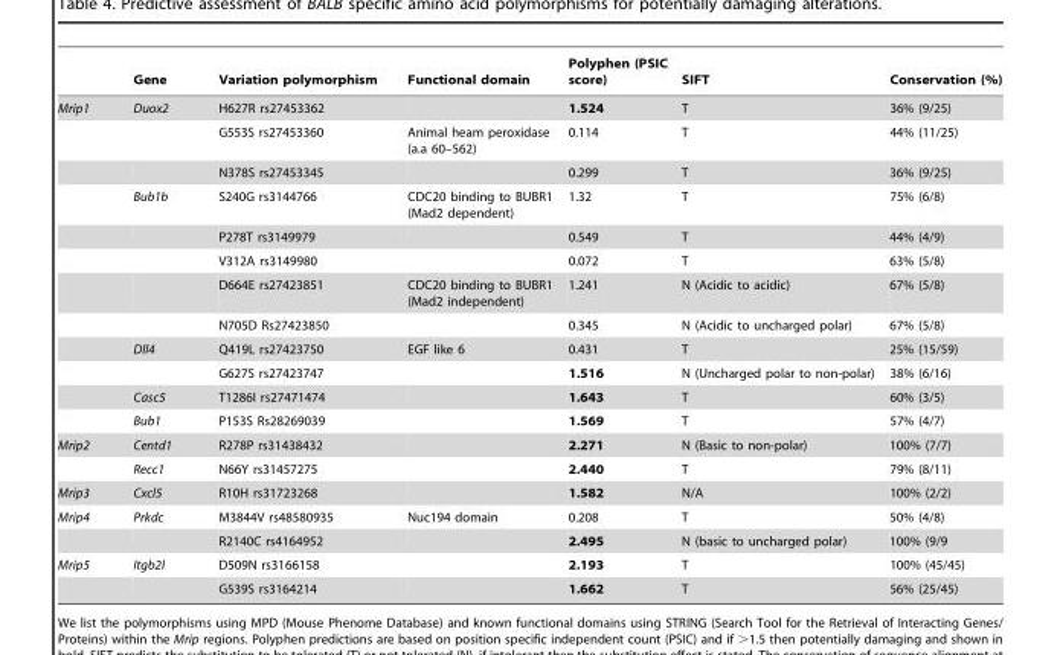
<table><thead><tr><td></td><td>Gene</td><td>Variation polymorphism</td><td>Functional domain</td><td>Polyphen (PSIC score)</td><td>SIFT</td><td>Conservation (%)</td></tr></thead><tbody><tr><td rowspan="12">Mrip1</td><td>Duox2</td><td>H627R rs27453362</td><td></td><td>1.524</td><td>T</td><td>36% (9/25)</td></tr><tr><td></td><td>G553S rs27453360</td><td>Animal heam peroxidase (a.a 60–562)</td><td>0.114</td><td>T</td><td>44% (11/25)</td></tr><tr><td></td><td>N378S rs27453345</td><td></td><td>0.299</td><td>T</td><td>36% (9/25)</td></tr><tr><td>Bub1b</td><td>S240G rs3144766</td><td>CDC20 binding to BUBR1 (Mad2 dependent)</td><td>1.32</td><td>T</td><td>75% (6/8)</td></tr><tr><td></td><td>P278T rs3149979</td><td></td><td>0.549</td><td>T</td><td>44% (4/9)</td></tr><tr><td></td><td>V312A rs3149980</td><td></td><td>0.072</td><td>T</td><td>63% (5/8)</td></tr><tr><td></td><td>D664E rs27423851</td><td>CDC20 binding to BUBR1 (Mad2 independent)</td><td>1.241</td><td>N (Acidic to acidic)</td><td>67% (5/8)</td></tr><tr><td></td><td>N705D Rs27423850</td><td></td><td>0.345</td><td>N (Acidic to uncharged polar)</td><td>67% (5/8)</td></tr><tr><td>Dll4</td><td>Q419L rs27423750</td><td>EGF like 6</td><td>0.431</td><td>T</td><td>25% (15/59)</td></tr><tr><td></td><td>G627S rs27423747</td><td></td><td>1.516</td><td>N (Uncharged polar to non-polar)</td><td>38% (6/16)</td></tr><tr><td>Casc5</td><td>T1286I rs27471474</td><td></td><td>1.643</td><td>T</td><td>60% (3/5)</td></tr><tr><td>Bub1</td><td>P153S Rs28269039</td><td></td><td>1.569</td><td>T</td><td>57% (4/7)</td></tr><tr><td rowspan="2">Mrip2</td><td>Centd1</td><td>R278P rs31438432</td><td></td><td>2.271</td><td>N (Basic to non-polar)</td><td>100% (7/7)</td></tr><tr><td>Recc1</td><td>N66Y rs31457275</td><td></td><td>2.440</td><td>T</td><td>79% (8/11)</td></tr><tr><td>Mrip3</td><td>Cxcl5</td><td>R10H rs31723268</td><td></td><td>1.582</td><td>N/A</td><td>100% (2/2)</td></tr><tr><td rowspan="2">Mrip4</td><td>Prkdc</td><td>M3844V rs48580935</td><td>Nuc194 domain</td><td>0.208</td><td>T</td><td>50% (4/8)</td></tr><tr><td></td><td>R2140C rs4164952</td><td></td><td>2.495</td><td>N (basic to uncharged polar)</td><td>100% (9/9</td></tr><tr><td rowspan="2">Mrip5</td><td>Itgb2l</td><td>D509N rs3166158</td><td></td><td>2.193</td><td>T</td><td>100% (45/45)</td></tr><tr><td></td><td>G539S rs3164214</td><td></td><td>1.662</td><td>T</td><td>56% (25/45)</td></tr></tbody></table>